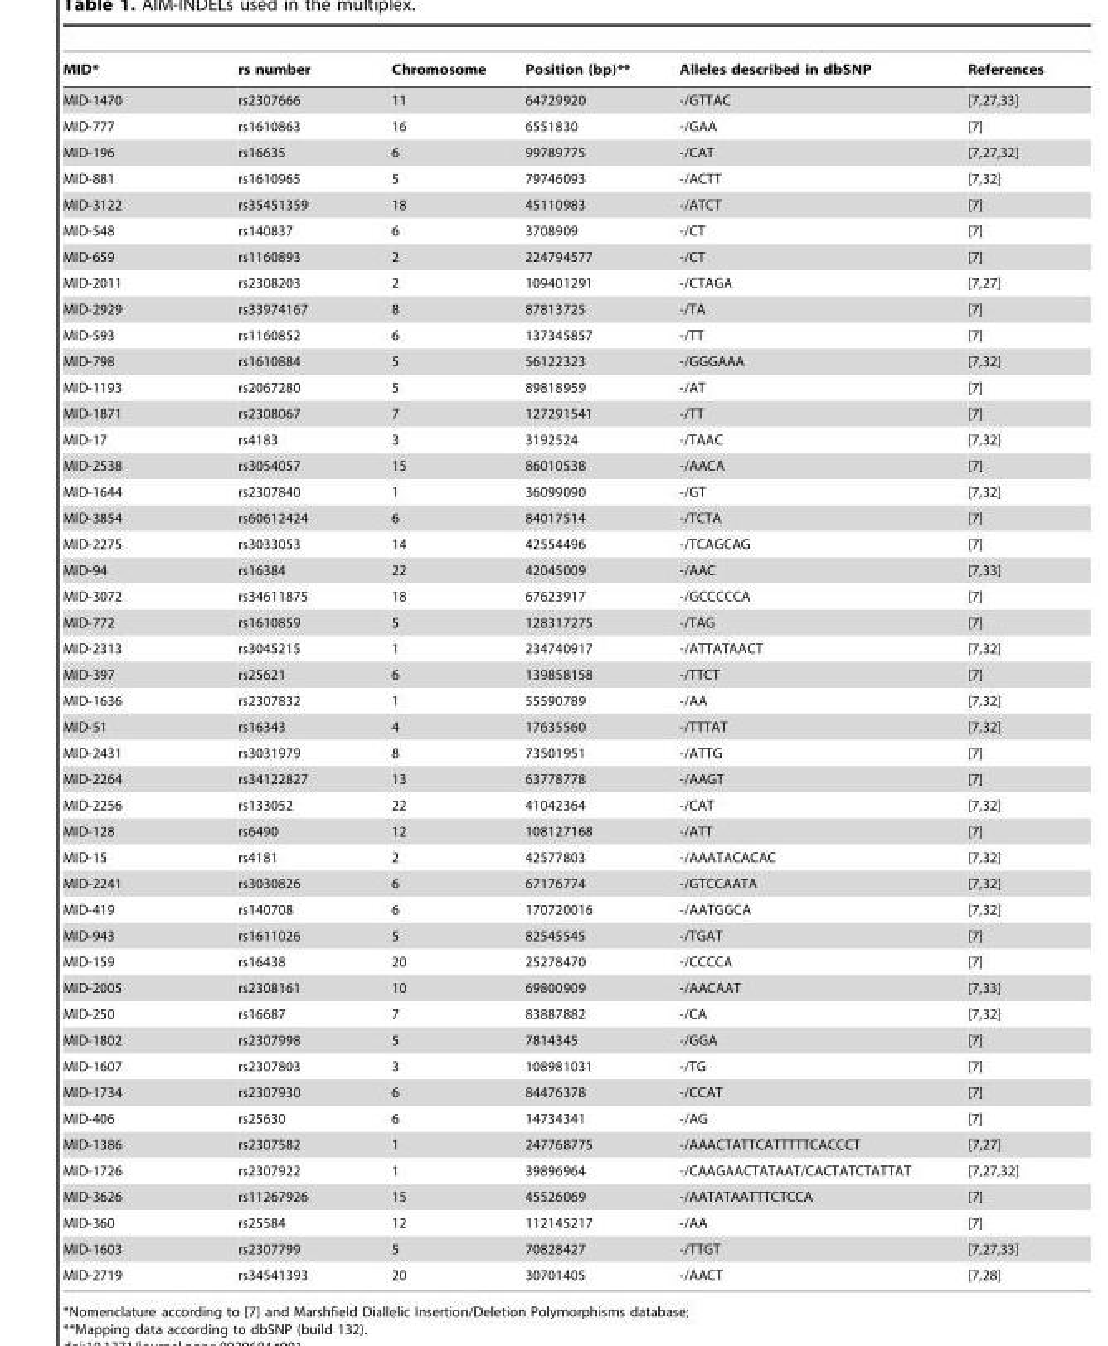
<table><thead><tr><td>MID*</td><td>rs number</td><td>Chromosome</td><td>Position (bp)**</td><td>Alleles described in dbSNP</td><td>References</td></tr></thead><tbody><tr><td>MID-1470</td><td>rs2307666</td><td>11</td><td>64729920</td><td>-/GTTAC</td><td>[7,27,33]</td></tr><tr><td>MID-777</td><td>rs1610863</td><td>16</td><td>6551830</td><td>-/GAA</td><td>[7]</td></tr><tr><td>MID-196</td><td>rs16635</td><td>6</td><td>99789775</td><td>-/CAT</td><td>[7,27,32]</td></tr><tr><td>MID-881</td><td>rs1610965</td><td>5</td><td>79746093</td><td>-/ACTT</td><td>[7,32]</td></tr><tr><td>MID-3122</td><td>rs35451359</td><td>18</td><td>45110983</td><td>-/ATCT</td><td>[7]</td></tr><tr><td>MID-548</td><td>rs140837</td><td>6</td><td>3708909</td><td>-/CT</td><td>[7]</td></tr><tr><td>MID-659</td><td>rs1160893</td><td>2</td><td>224794577</td><td>-/CT</td><td>[7]</td></tr><tr><td>MID-2011</td><td>rs2308203</td><td>2</td><td>109401291</td><td>-/CTAGA</td><td>[7,27]</td></tr><tr><td>MID-2929</td><td>rs33974167</td><td>8</td><td>87813725</td><td>-/TA</td><td>[7]</td></tr><tr><td>MID-593</td><td>rs1160852</td><td>6</td><td>137345857</td><td>-/TT</td><td>[7]</td></tr><tr><td>MID-798</td><td>rs1610884</td><td>5</td><td>56122323</td><td>-/GGGAAA</td><td>[7,32]</td></tr><tr><td>MID-1193</td><td>rs2067280</td><td>5</td><td>89818959</td><td>-/AT</td><td>[7]</td></tr><tr><td>MID-1871</td><td>rs2308067</td><td>7</td><td>127291541</td><td>-/TT</td><td>[7]</td></tr><tr><td>MID-17</td><td>rs4183</td><td>3</td><td>3192524</td><td>-/TAAC</td><td>[7,32]</td></tr><tr><td>MID-2538</td><td>rs3054057</td><td>15</td><td>86010538</td><td>-/AACA</td><td>[7]</td></tr><tr><td>MID-1644</td><td>rs2307840</td><td>1</td><td>36099090</td><td>-/GT</td><td>[7,32]</td></tr><tr><td>MID-3854</td><td>rs60612424</td><td>6</td><td>84017514</td><td>-/TCTA</td><td>[7]</td></tr><tr><td>MID-2275</td><td>rs3033053</td><td>14</td><td>42554496</td><td>-/TCAGCAG</td><td>[7]</td></tr><tr><td>MID-94</td><td>rs16384</td><td>22</td><td>42045009</td><td>-/AAC</td><td>[7,33]</td></tr><tr><td>MID-3072</td><td>rs34611875</td><td>18</td><td>67623917</td><td>-/GCCCCCA</td><td>[7]</td></tr><tr><td>MID-772</td><td>rs1610859</td><td>5</td><td>128317275</td><td>-/TAG</td><td>[7]</td></tr><tr><td>MID-2313</td><td>rs3045215</td><td>1</td><td>234740917</td><td>-/ATTATAACT</td><td>[7,32]</td></tr><tr><td>MID-397</td><td>rs25621</td><td>6</td><td>139858158</td><td>-/TTCT</td><td>[7]</td></tr><tr><td>MID-1636</td><td>rs2307832</td><td>1</td><td>55590789</td><td>-/AA</td><td>[7,32]</td></tr><tr><td>MID-51</td><td>rs16343</td><td>4</td><td>17635560</td><td>-/TTTAT</td><td>[7,32]</td></tr><tr><td>MID-2431</td><td>rs3031979</td><td>8</td><td>73501951</td><td>-/ATTG</td><td>[7]</td></tr><tr><td>MID-2264</td><td>rs34122827</td><td>13</td><td>63778778</td><td>-/AAGT</td><td>[7]</td></tr><tr><td>MID-2256</td><td>rs133052</td><td>22</td><td>41042364</td><td>-/CAT</td><td>[7,32]</td></tr><tr><td>MID-128</td><td>rs6490</td><td>12</td><td>108127168</td><td>-/ATT</td><td>[7]</td></tr><tr><td>MID-15</td><td>rs4181</td><td>2</td><td>42577803</td><td>-/AAATACACAC</td><td>[7,32]</td></tr><tr><td>MID-2241</td><td>rs3030826</td><td>6</td><td>67176774</td><td>-/GTCCAATA</td><td>[7,32]</td></tr><tr><td>MID-419</td><td>rs140708</td><td>6</td><td>170720016</td><td>-/AATGGCA</td><td>[7,32]</td></tr><tr><td>MID-943</td><td>rs1611026</td><td>5</td><td>82545545</td><td>-/TGAT</td><td>[7]</td></tr><tr><td>MID-159</td><td>rs16438</td><td>20</td><td>25278470</td><td>-/CCCCA</td><td>[7]</td></tr><tr><td>MID-2005</td><td>rs2308161</td><td>10</td><td>69800909</td><td>-/AACAAT</td><td>[7,33]</td></tr><tr><td>MID-250</td><td>rs16687</td><td>7</td><td>83887882</td><td>-/CA</td><td>[7,32]</td></tr><tr><td>MID-1802</td><td>rs2307998</td><td>5</td><td>7814345</td><td>-/GGA</td><td>[7]</td></tr><tr><td>MID-1607</td><td>rs2307803</td><td>3</td><td>108981031</td><td>-/TG</td><td>[7]</td></tr><tr><td>MID-1734</td><td>rs2307930</td><td>6</td><td>84476378</td><td>-/CCAT</td><td>[7]</td></tr><tr><td>MID-406</td><td>rs25630</td><td>6</td><td>14734341</td><td>-/AG</td><td>[7]</td></tr><tr><td>MID-1386</td><td>rs2307582</td><td>1</td><td>247768775</td><td>-/AAACTATTCATTTTTCACCCT</td><td>[7,27]</td></tr><tr><td>MID-1726</td><td>rs2307922</td><td>1</td><td>39896964</td><td>-/CAAGAACTATAAT/CACTATCTATTAT</td><td>[7,27,32]</td></tr><tr><td>MID-3626</td><td>rs11267926</td><td>15</td><td>45526069</td><td>-/AATATAATTTCTCCA</td><td>[7]</td></tr><tr><td>MID-360</td><td>rs25584</td><td>12</td><td>112145217</td><td>-/AA</td><td>[7]</td></tr><tr><td>MID-1603</td><td>rs2307799</td><td>5</td><td>70828427</td><td>-/TTGT</td><td>[7,27,33]</td></tr><tr><td>MID-2719</td><td>rs34541393</td><td>20</td><td>30701405</td><td>-/AACT</td><td>[7,28]</td></tr></tbody></table>